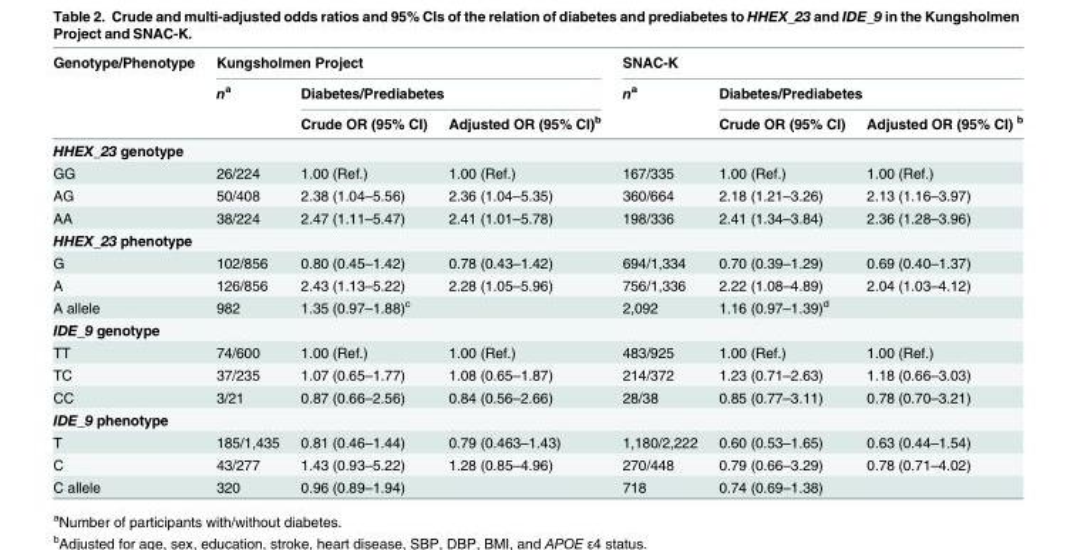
<table><thead><tr><td rowspan="3">Genotype/Phenotype</td><td colspan="3">Kungsholmen Project</td><td colspan="3">SNAC-K</td></tr><tr><td rowspan="2">n<sup>a</sup></td><td colspan="2">Diabetes/Prediabetes</td><td rowspan="2">n<sup>a</sup></td><td colspan="2">Diabetes/Prediabetes</td></tr><tr><td>Crude OR (95% CI)</td><td>Adjusted OR (95% CI)<sup>b</sup></td><td>Crude OR (95% CI)</td><td>Adjusted OR (95% CI) <sup>b</sup></td></tr></thead><tbody><tr><td colspan="7">HHEX_23 genotype</td></tr><tr><td>GG</td><td>26/224</td><td>1.00 (Ref.)</td><td>1.00 (Ref.)</td><td>167/335</td><td>1.00 (Ref.)</td><td>1.00 (Ref.)</td></tr><tr><td>AG</td><td>50/408</td><td>2.38 (1.04–5.56)</td><td>2.36 (1.04–5.35)</td><td>360/664</td><td>2.18 (1.21–3.26)</td><td>2.13 (1.16–3.97)</td></tr><tr><td>AA</td><td>38/224</td><td>2.47 (1.11–5.47)</td><td>2.41 (1.01–5.78)</td><td>198/336</td><td>2.41 (1.34–3.84)</td><td>2.36 (1.28–3.96)</td></tr><tr><td colspan="7">HHEX_23 phenotype</td></tr><tr><td>G</td><td>102/856</td><td>0.80 (0.45–1.42)</td><td>0.78 (0.43–1.42)</td><td>694/1,334</td><td>0.70 (0.39–1.29)</td><td>0.69 (0.40–1.37)</td></tr><tr><td>A</td><td>126/856</td><td>2.43 (1.13–5.22)</td><td>2.28 (1.05–5.96)</td><td>756/1,336</td><td>2.22 (1.08–4.89)</td><td>2.04 (1.03–4.12)</td></tr><tr><td>A allele</td><td>982</td><td>1.35 (0.97–1.88)<sup>c</sup></td><td></td><td>2,092</td><td>1.16 (0.97–1.39)<sup>d</sup></td><td></td></tr><tr><td colspan="7">IDE_9 genotype</td></tr><tr><td>TT</td><td>74/600</td><td>1.00 (Ref.)</td><td>1.00 (Ref.)</td><td>483/925</td><td>1.00 (Ref.)</td><td>1.00 (Ref.)</td></tr><tr><td>TC</td><td>37/235</td><td>1.07 (0.65–1.77)</td><td>1.08 (0.65–1.87)</td><td>214/372</td><td>1.23 (0.71–2.63)</td><td>1.18 (0.66–3.03)</td></tr><tr><td>CC</td><td>3/21</td><td>0.87 (0.66–2.56)</td><td>0.84 (0.56–2.66)</td><td>28/38</td><td>0.85 (0.77–3.11)</td><td>0.78 (0.70–3.21)</td></tr><tr><td colspan="7">IDE_9 phenotype</td></tr><tr><td>T</td><td>185/1,435</td><td>0.81 (0.46–1.44)</td><td>0.79 (0.463–1.43)</td><td>1,180/2,222</td><td>0.60 (0.53–1.65)</td><td>0.63 (0.44–1.54)</td></tr><tr><td>C</td><td>43/277</td><td>1.43 (0.93–5.22)</td><td>1.28 (0.85–4.96)</td><td>270/448</td><td>0.79 (0.66–3.29)</td><td>0.78 (0.71–4.02)</td></tr><tr><td>C allele</td><td>320</td><td>0.96 (0.89–1.94)</td><td></td><td>718</td><td>0.74 (0.69–1.38)</td><td></td></tr></tbody></table>